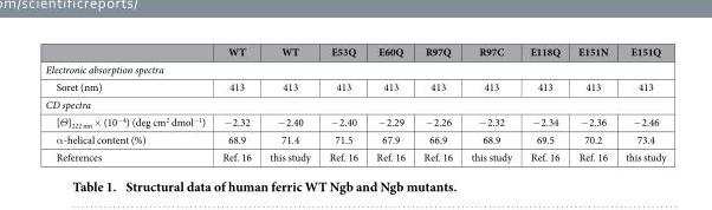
<table><thead><tr><td></td><td>WT</td><td>WT</td><td>E53Q</td><td>E60Q</td><td>R97Q</td><td>R97C</td><td>E118Q</td><td>E151N</td><td>E151Q</td></tr></thead><tbody><tr><td colspan="10">Electronic absorption spectra</td></tr><tr><td>Soret (nm)</td><td>413</td><td>413</td><td>413</td><td>413</td><td>413</td><td>413</td><td>413</td><td>413</td><td>413</td></tr><tr><td colspan="10">CD spectra</td></tr><tr><td>[Θ]<sub>222 nm</sub> × (10<sup>−4</sup>) (deg cm<sup>2</sup> dmol<sup>−1</sup>)</td><td>− 2.32</td><td>− 2.40</td><td>− 2.40</td><td>− 2.29</td><td>− 2.26</td><td>− 2.32</td><td>− 2.34</td><td>− 2.36</td><td>− 2.46</td></tr><tr><td>α -helical content (%)</td><td>68.9</td><td>71.4</td><td>71.5</td><td>67.9</td><td>66.9</td><td>68.9</td><td>69.5</td><td>70.2</td><td>73.4</td></tr><tr><td>References</td><td>Ref. 16</td><td>this study</td><td>Ref. 16</td><td>Ref. 16</td><td>Ref. 16</td><td>this study</td><td>Ref. 16</td><td>Ref. 16</td><td>this study</td></tr></tbody></table>